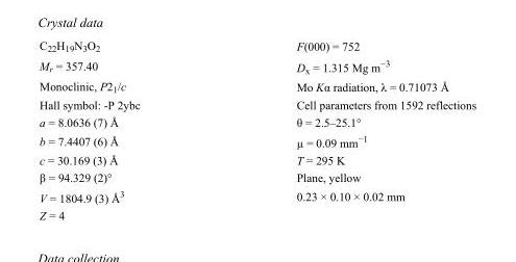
<table><tbody><tr><td>C<sub>22</sub>H<sub>19</sub>N<sub>3</sub>O<sub>2</sub></td><td>F(000) = 752</td></tr><tr><td>M<sub>r</sub> = 357.40</td><td>D<sub>x</sub> = 1.315 Mg m<sup>−3</sup></td></tr><tr><td>Monoclinic, P2<sub>1</sub>/c</td><td>Mo Kα radiation, λ = 0.71073 Å</td></tr><tr><td>Hall symbol: -P 2ybc</td><td>Cell parameters from 1592 reflections</td></tr><tr><td>a = 8.0636 (7) Å</td><td>θ = 2.5–25.1°</td></tr><tr><td>b = 7.4407 (6) Å</td><td>µ = 0.09 mm<sup>−1</sup></td></tr><tr><td>c = 30.169 (3) Å</td><td>T = 295 K</td></tr><tr><td>β = 94.329 (2)°</td><td>Plane, yellow</td></tr><tr><td>V = 1804.9 (3) Å<sup>3</sup></td><td>0.23 × 0.10 × 0.02 mm</td></tr><tr><td>Z = 4</td><td></td></tr></tbody></table>